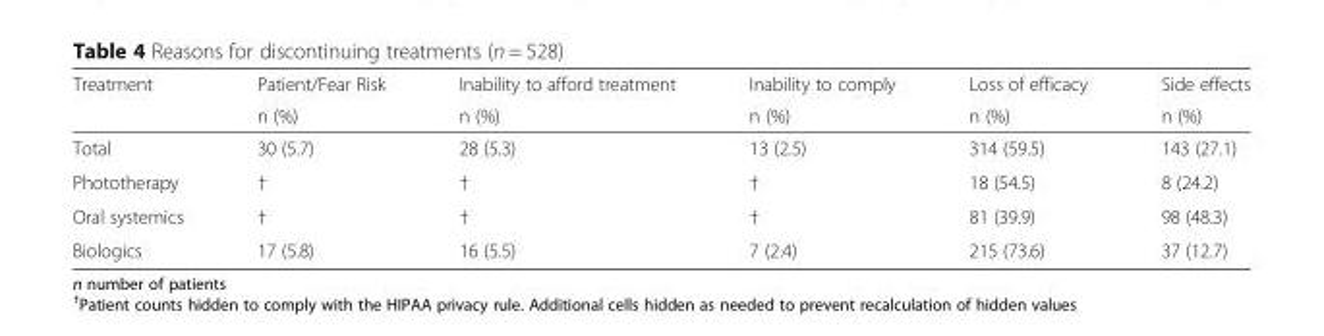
<table><thead><tr><td rowspan="2">Treatment</td><td rowspan="2">Patient/Fear Risk n (%)</td><td rowspan="2">Inability to afford treatment n (%)</td><td rowspan="2">Inability to comply n (%)</td><td rowspan="2">Loss of efficacy n (%)</td><td rowspan="2">Side effects n (%)</td></tr><tr></tr></thead><tbody><tr><td>Total</td><td>30 (5.7)</td><td>28 (5.3)</td><td>13 (2.5)</td><td>314 (59.5)</td><td>143 (27.1)</td></tr><tr><td>Phototherapy</td><td>†</td><td>†</td><td>†</td><td>18 (54.5)</td><td>8 (24.2)</td></tr><tr><td>Oral systemics</td><td>†</td><td>†</td><td>†</td><td>81 (39.9)</td><td>98 (48.3)</td></tr><tr><td>Biologics</td><td>17 (5.8)</td><td>16 (5.5)</td><td>7 (2.4)</td><td>215 (73.6)</td><td>37 (12.7)</td></tr></tbody></table>